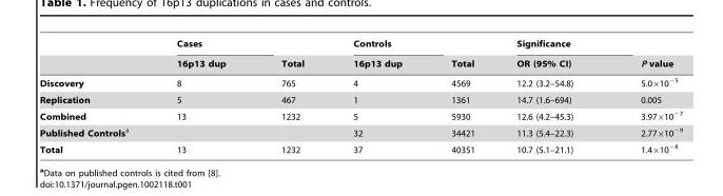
<table><thead><tr><td rowspan="2"></td><td rowspan="2">Cases 16p13 dup</td><td rowspan="2">Total</td><td rowspan="2">Controls 16p13 dup</td><td rowspan="2">Total</td><td rowspan="2">Significance OR (95% CI)</td><td rowspan="2">P value</td></tr><tr></tr></thead><tbody><tr><td>Discovery</td><td>8</td><td>765</td><td>4</td><td>4569</td><td>12.2 (3.2–54.8)</td><td>5.0×10<sup>−5</sup></td></tr><tr><td>Replication</td><td>5</td><td>467</td><td>1</td><td>1361</td><td>14.7 (1.6–694)</td><td>0.005</td></tr><tr><td>Combined</td><td>13</td><td>1232</td><td>5</td><td>5930</td><td>12.6 (4.2–45.3)</td><td>3.97×10<sup>−7</sup></td></tr><tr><td>Published Controlsa</td><td></td><td></td><td>32</td><td>34421</td><td>11.3 (5.4–22.3)</td><td>2.77×10<sup>−9</sup></td></tr><tr><td>Total</td><td>13</td><td>1232</td><td>37</td><td>40351</td><td>10.7 (5.1–21.1)</td><td>1.4×10<sup>−8</sup></td></tr></tbody></table>